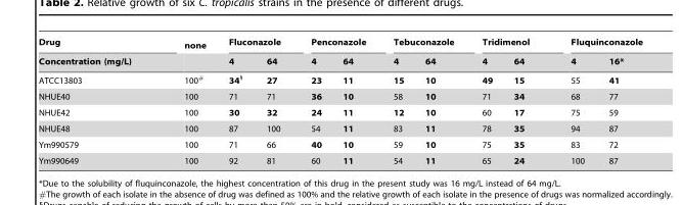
<table><thead><tr><td rowspan="2">Drug Concentration (mg/L)</td><td rowspan="2">none</td><td colspan="2">Fluconazole</td><td colspan="2">Penconazole</td><td colspan="2">Tebuconazole</td><td colspan="2">Tridimenol</td><td colspan="2">Fluquinconazole</td></tr><tr><td>4</td><td>64</td><td>4</td><td>64</td><td>4</td><td>64</td><td>4</td><td>64</td><td>4</td><td>16*</td></tr></thead><tbody><tr><td>ATCC13803</td><td>100#</td><td>34§</td><td>27</td><td>23</td><td>11</td><td>15</td><td>10</td><td>49</td><td>15</td><td>55</td><td>41</td></tr><tr><td>NHUE40</td><td>100</td><td>71</td><td>71</td><td>36</td><td>10</td><td>58</td><td>10</td><td>71</td><td>34</td><td>68</td><td>77</td></tr><tr><td>NHUE42</td><td>100</td><td>30</td><td>32</td><td>24</td><td>11</td><td>12</td><td>10</td><td>60</td><td>17</td><td>75</td><td>59</td></tr><tr><td>NHUE48</td><td>100</td><td>87</td><td>100</td><td>54</td><td>11</td><td>83</td><td>11</td><td>78</td><td>35</td><td>94</td><td>87</td></tr><tr><td>Ym990579</td><td>100</td><td>71</td><td>66</td><td>40</td><td>10</td><td>59</td><td>10</td><td>75</td><td>35</td><td>83</td><td>72</td></tr><tr><td>Ym990649</td><td>100</td><td>92</td><td>81</td><td>60</td><td>11</td><td>54</td><td>11</td><td>65</td><td>24</td><td>100</td><td>87</td></tr></tbody></table>